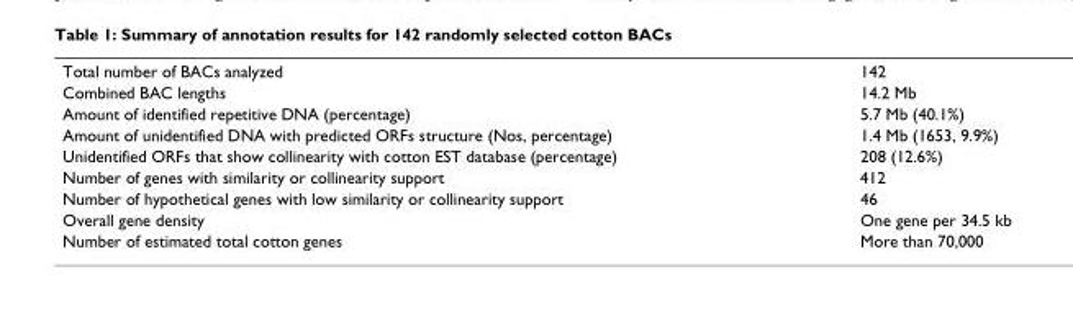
<table><tbody><tr><td>Total number of BACs analyzed</td><td>142</td></tr><tr><td>Combined BAC lengths</td><td>14.2 Mb</td></tr><tr><td>Amount of identified repetitive DNA (percentage)</td><td>5.7 Mb (40.1%)</td></tr><tr><td>Amount of unidentified DNA with predicted ORFs structure (Nos, percentage)</td><td>1.4 Mb (1653, 9.9%)</td></tr><tr><td>Unidentified ORFs that show collinearity with cotton EST database (percentage)</td><td>208 (12.6%)</td></tr><tr><td>Number of genes with similarity or collinearity support</td><td>412</td></tr><tr><td>Number of hypothetical genes with low similarity or collinearity support</td><td>46</td></tr><tr><td>Overall gene density</td><td>One gene per 34.5 kb</td></tr><tr><td>Number of estimated total cotton genes</td><td>More than 70,000</td></tr></tbody></table>